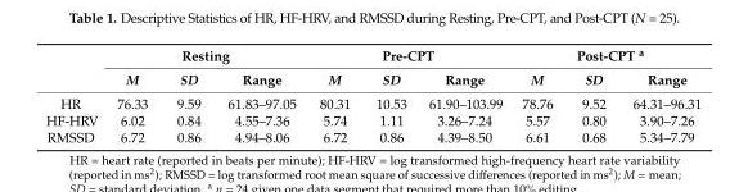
<table><thead><tr><td rowspan="2"></td><td colspan="3">Resting</td><td colspan="3">Pre-CPT</td><td colspan="3">Post-CPT <sup>a</sup></td></tr><tr><td>M</td><td>SD</td><td>Range</td><td>M</td><td>SD</td><td>Range</td><td>M</td><td>SD</td><td>Range</td></tr></thead><tbody><tr><td>HR</td><td>76.33</td><td>9.59</td><td>61.83–97.05</td><td>80.31</td><td>10.53</td><td>61.90–103.99</td><td>78.76</td><td>9.52</td><td>64.31–96.31</td></tr><tr><td>HF-HRV</td><td>6.02</td><td>0.84</td><td>4.55–7.36</td><td>5.74</td><td>1.11</td><td>3.26–7.24</td><td>5.57</td><td>0.80</td><td>3.90–7.26</td></tr><tr><td>RMSSD</td><td>6.72</td><td>0.86</td><td>4.94–8.06</td><td>6.72</td><td>0.86</td><td>4.39–8.50</td><td>6.61</td><td>0.68</td><td>5.34–7.79</td></tr></tbody></table>